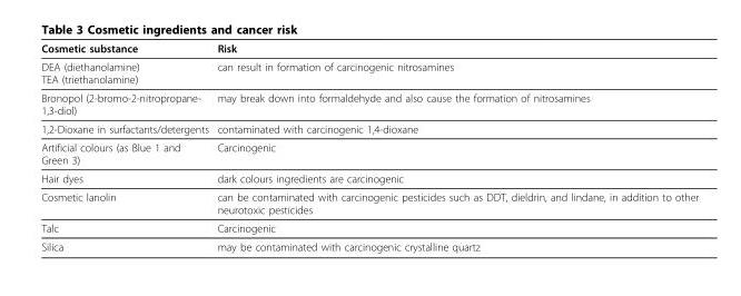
<table><thead><tr><td>Cosmetic substance</td><td>Risk</td></tr></thead><tbody><tr><td>DEA (diethanolamine) TEA (triethanolamine)</td><td>can result in formation of carcinogenic nitrosamines</td></tr><tr><td>Bronopol (2-bromo-2-nitropropane- 1,3-diol)</td><td>may break down into formaldehyde and also cause the formation of nitrosamines</td></tr><tr><td>1,2-Dioxane in surfactants/detergents</td><td>contaminated with carcinogenic 1,4-dioxane</td></tr><tr><td>Artificial colours (as Blue 1 and Green 3)</td><td>Carcinogenic</td></tr><tr><td>Hair dyes</td><td>dark colours ingredients are carcinogenic</td></tr><tr><td>Cosmetic lanolin</td><td>can be contaminated with carcinogenic pesticides such as DDT, dieldrin, and lindane, in addition to other neurotoxic pesticides</td></tr><tr><td>Talc</td><td>Carcinogenic</td></tr><tr><td>Silica</td><td>may be contaminated with carcinogenic crystalline quartz</td></tr></tbody></table>